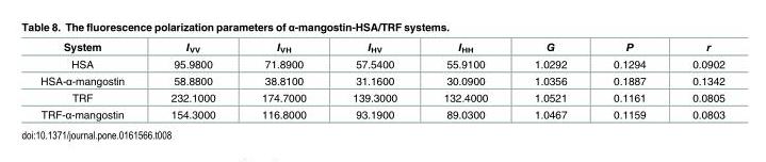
<table><thead><tr><td>System</td><td>I<sub>VV</sub></td><td>I<sub>VH</sub></td><td>I<sub>HV</sub></td><td>I<sub>HH</sub></td><td>G</td><td>P</td><td>r</td></tr></thead><tbody><tr><td>HSA</td><td>95.9800</td><td>71.8900</td><td>57.5400</td><td>55.9100</td><td>1.0292</td><td>0.1294</td><td>0.0902</td></tr><tr><td>HSA-α-mangostin</td><td>58.8800</td><td>38.8100</td><td>31.1600</td><td>30.0900</td><td>1.0356</td><td>0.1887</td><td>0.1342</td></tr><tr><td>TRF</td><td>232.1000</td><td>174.7000</td><td>139.3000</td><td>132.4000</td><td>1.0521</td><td>0.1161</td><td>0.0805</td></tr><tr><td>TRF-α-mangostin</td><td>154.3000</td><td>116.8000</td><td>93.1900</td><td>89.0300</td><td>1.0467</td><td>0.1159</td><td>0.0803</td></tr></tbody></table>